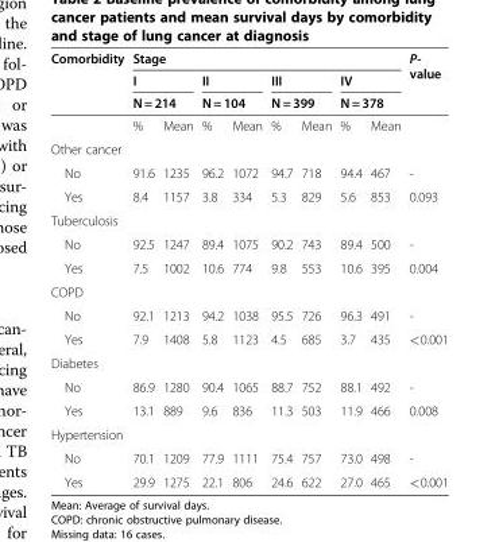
<table><thead><tr><td rowspan="4">Comorbidity</td><td colspan="8">Stage</td><td rowspan="4">P- value</td></tr><tr><td rowspan="2" colspan="2">I N = 214</td><td rowspan="2" colspan="2">II N = 104</td><td rowspan="2" colspan="2">III N = 399</td><td rowspan="2" colspan="2">IV N = 378</td></tr><tr></tr><tr><td>%</td><td>Mean</td><td>%</td><td>Mean</td><td>%</td><td>Mean</td><td>%</td><td>Mean</td></tr></thead><tbody><tr><td colspan="10">Other cancer</td></tr><tr><td>No</td><td>91.6</td><td>1235</td><td>96.2</td><td>1072</td><td>94.7</td><td>718</td><td>94.4</td><td>467</td><td>-</td></tr><tr><td>Yes</td><td>8.4</td><td>1157</td><td>3.8</td><td>334</td><td>5.3</td><td>829</td><td>5.6</td><td>853</td><td>0.093</td></tr><tr><td colspan="10">Tuberculosis</td></tr><tr><td>No</td><td>92.5</td><td>1247</td><td>89.4</td><td>1075</td><td>90.2</td><td>743</td><td>89.4</td><td>500</td><td>-</td></tr><tr><td>Yes</td><td>7.5</td><td>1002</td><td>10.6</td><td>774</td><td>9.8</td><td>553</td><td>10.6</td><td>395</td><td>0.004</td></tr><tr><td colspan="10">COPD</td></tr><tr><td>No</td><td>92.1</td><td>1213</td><td>94.2</td><td>1038</td><td>95.5</td><td>726</td><td>96.3</td><td>491</td><td>-</td></tr><tr><td>Yes</td><td>7.9</td><td>1408</td><td>5.8</td><td>1123</td><td>4.5</td><td>685</td><td>3.7</td><td>435</td><td>&lt;0.001</td></tr><tr><td colspan="10">Diabetes</td></tr><tr><td>No</td><td>86.9</td><td>1280</td><td>90.4</td><td>1065</td><td>88.7</td><td>752</td><td>88.1</td><td>492</td><td>-</td></tr><tr><td>Yes</td><td>13.1</td><td>889</td><td>9.6</td><td>836</td><td>11.3</td><td>503</td><td>11.9</td><td>466</td><td>0.008</td></tr><tr><td colspan="10">Hypertension</td></tr><tr><td>No</td><td>70.1</td><td>1209</td><td>77.9</td><td>1111</td><td>75.4</td><td>757</td><td>73.0</td><td>498</td><td>-</td></tr><tr><td>Yes</td><td>29.9</td><td>1275</td><td>22.1</td><td>806</td><td>24.6</td><td>622</td><td>27.0</td><td>465</td><td>&lt;0.001</td></tr></tbody></table>